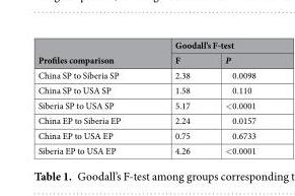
<table><thead><tr><td rowspan="2">Profiles comparison</td><td colspan="2">Goodall’s F-test</td></tr><tr><td>F</td><td>P</td></tr></thead><tbody><tr><td>China SP to Siberia SP</td><td>2.38</td><td>0.0098</td></tr><tr><td>China SP to USA SP</td><td>1.58</td><td>0.110</td></tr><tr><td>Siberia SP to USA SP</td><td>5.17</td><td>&lt;0.0001</td></tr><tr><td>China EP to Siberia EP</td><td>2.24</td><td>0.0157</td></tr><tr><td>China EP to USA EP</td><td>0.75</td><td>0.6733</td></tr><tr><td>Siberia EP to USA EP</td><td>4.26</td><td>&lt;0.0001</td></tr></tbody></table>